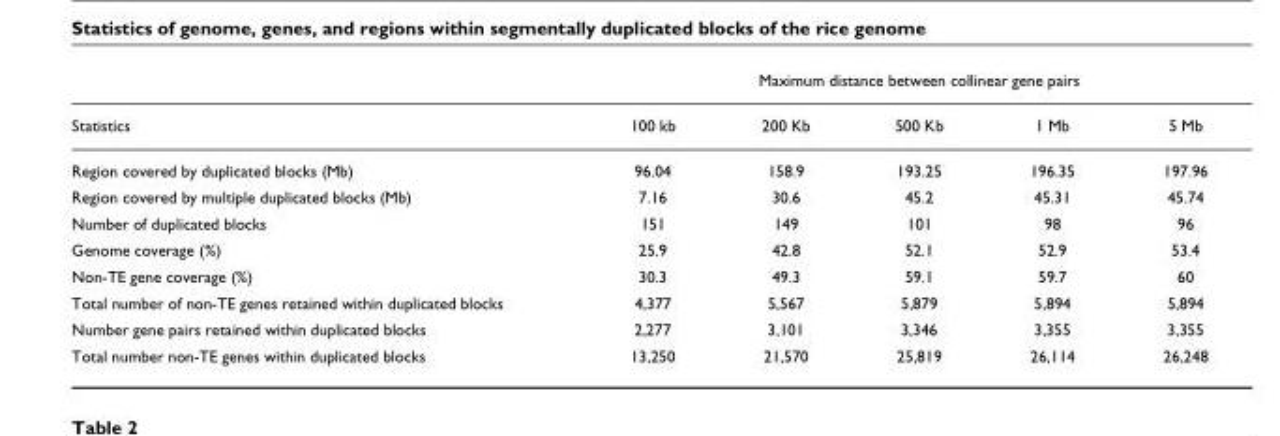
<table><thead><tr><td rowspan="2">Statistics</td><td colspan="5">Maximum distance between collinear gene pairs</td></tr><tr><td>100 kb</td><td>200 Kb</td><td>500 Kb</td><td>1 Mb</td><td>5 Mb</td></tr></thead><tbody><tr><td>Region covered by duplicated blocks (Mb)</td><td>96.04</td><td>158.9</td><td>193.25</td><td>196.35</td><td>197.96</td></tr><tr><td>Region covered by multiple duplicated blocks (Mb)</td><td>7.16</td><td>30.6</td><td>45.2</td><td>45.31</td><td>45.74</td></tr><tr><td>Number of duplicated blocks</td><td>151</td><td>149</td><td>101</td><td>98</td><td>96</td></tr><tr><td>Genome coverage (%)</td><td>25.9</td><td>42.8</td><td>52.1</td><td>52.9</td><td>53.4</td></tr><tr><td>Non-TE gene coverage (%)</td><td>30.3</td><td>49.3</td><td>59.1</td><td>59.7</td><td>60</td></tr><tr><td>Total number of non-TE genes retained within duplicated blocks</td><td>4,377</td><td>5,567</td><td>5,879</td><td>5,894</td><td>5,894</td></tr><tr><td>Number gene pairs retained within duplicated blocks</td><td>2,277</td><td>3,101</td><td>3,346</td><td>3,355</td><td>3,355</td></tr><tr><td>Total number non-TE genes within duplicated blocks</td><td>13,250</td><td>21,570</td><td>25,819</td><td>26,114</td><td>26,248</td></tr></tbody></table>